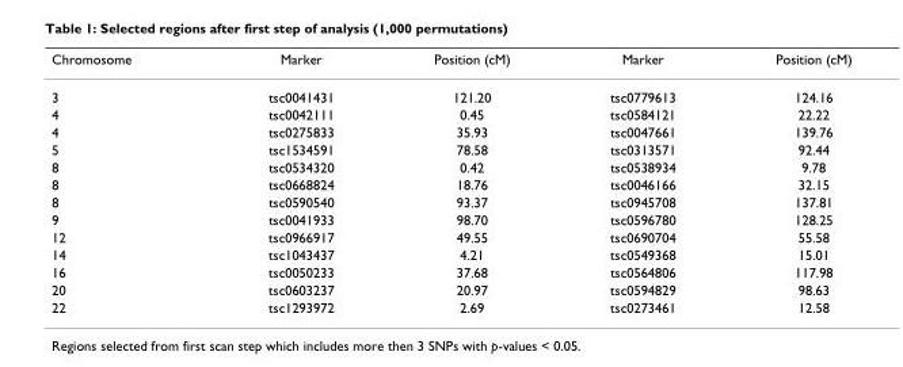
<table><thead><tr><td>Chromosome</td><td>Marker</td><td>Position (cM)</td><td>Marker</td><td>Position (cM)</td></tr></thead><tbody><tr><td>3</td><td>tsc0041431</td><td>121.20</td><td>tsc0779613</td><td>124.16</td></tr><tr><td>4</td><td>tsc0042111</td><td>0.45</td><td>tsc0584121</td><td>22.22</td></tr><tr><td>4</td><td>tsc0275833</td><td>35.93</td><td>tsc0047661</td><td>139.76</td></tr><tr><td>5</td><td>tsc1534591</td><td>78.58</td><td>tsc0313571</td><td>92.44</td></tr><tr><td>8</td><td>tsc0534320</td><td>0.42</td><td>tsc0538934</td><td>9.78</td></tr><tr><td>8</td><td>tsc0668824</td><td>18.76</td><td>tsc0046166</td><td>32.15</td></tr><tr><td>8</td><td>tsc0590540</td><td>93.37</td><td>tsc0945708</td><td>137.81</td></tr><tr><td>9</td><td>tsc0041933</td><td>98.70</td><td>tsc0596780</td><td>128.25</td></tr><tr><td>12</td><td>tsc0966917</td><td>49.55</td><td>tsc0690704</td><td>55.58</td></tr><tr><td>14</td><td>tsc1043437</td><td>4.21</td><td>tsc0549368</td><td>15.01</td></tr><tr><td>16</td><td>tsc0050233</td><td>37.68</td><td>tsc0564806</td><td>117.98</td></tr><tr><td>20</td><td>tsc0603237</td><td>20.97</td><td>tsc0594829</td><td>98.63</td></tr><tr><td>22</td><td>tsc1293972</td><td>2.69</td><td>tsc0273461</td><td>12.58</td></tr></tbody></table>